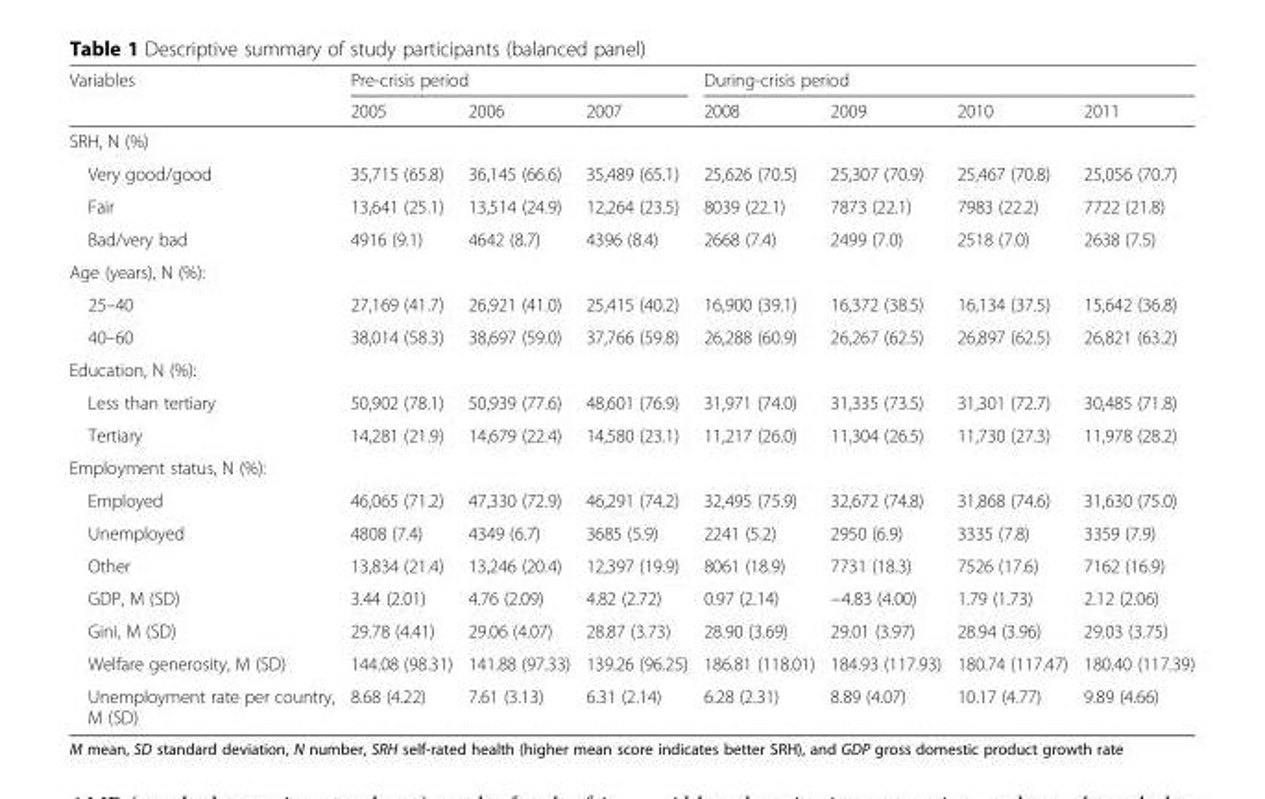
<table><thead><tr><td rowspan="2">Variables</td><td colspan="3">Pre-crisis period</td><td colspan="4">During-crisis period</td></tr><tr><td>2005</td><td>2006</td><td>2007</td><td>2008</td><td>2009</td><td>2010</td><td>2011</td></tr></thead><tbody><tr><td colspan="8">SRH, N (%)</td></tr><tr><td>Very good/good</td><td>35,715 (65.8)</td><td>36,145 (66.6)</td><td>35,489 (65.1)</td><td>25,626 (70.5)</td><td>25,307 (70.9)</td><td>25,467 (70.8)</td><td>25,056 (70.7)</td></tr><tr><td>Fair</td><td>13,641 (25.1)</td><td>13,514 (24.9)</td><td>12,264 (23.5)</td><td>8039 (22.1)</td><td>7873 (22.1)</td><td>7983 (22.2)</td><td>7722 (21.8)</td></tr><tr><td>Bad/very bad</td><td>4916 (9.1)</td><td>4642 (8.7)</td><td>4396 (8.4)</td><td>2668 (7.4)</td><td>2499 (7.0)</td><td>2518 (7.0)</td><td>2638 (7.5)</td></tr><tr><td colspan="8">Age (years), N (%):</td></tr><tr><td>25–40</td><td>27,169 (41.7)</td><td>26,921 (41.0)</td><td>25,415 (40.2)</td><td>16,900 (39.1)</td><td>16,372 (38.5)</td><td>16,134 (37.5)</td><td>15,642 (36.8)</td></tr><tr><td>40–60</td><td>38,014 (58.3)</td><td>38,697 (59.0)</td><td>37,766 (59.8)</td><td>26,288 (60.9)</td><td>26,267 (62.5)</td><td>26,897 (62.5)</td><td>26,821 (63.2)</td></tr><tr><td colspan="8">Education, N (%):</td></tr><tr><td>Less than tertiary</td><td>50,902 (78.1)</td><td>50,939 (77.6)</td><td>48,601 (76.9)</td><td>31,971 (74.0)</td><td>31,335 (73.5)</td><td>31,301 (72.7)</td><td>30,485 (71.8)</td></tr><tr><td>Tertiary</td><td>14,281 (21.9)</td><td>14,679 (22.4)</td><td>14,580 (23.1)</td><td>11,217 (26.0)</td><td>11,304 (26.5)</td><td>11,730 (27.3)</td><td>11,978 (28.2)</td></tr><tr><td colspan="8">Employment status, N (%):</td></tr><tr><td>Employed</td><td>46,065 (71.2)</td><td>47,330 (72.9)</td><td>46,291 (74.2)</td><td>32,495 (75.9)</td><td>32,672 (74.8)</td><td>31,868 (74.6)</td><td>31,630 (75.0)</td></tr><tr><td>Unemployed</td><td>4808 (7.4)</td><td>4349 (6.7)</td><td>3685 (5.9)</td><td>2241 (5.2)</td><td>2950 (6.9)</td><td>3335 (7.8)</td><td>3359 (7.9)</td></tr><tr><td>Other</td><td>13,834 (21.4)</td><td>13,246 (20.4)</td><td>12,397 (19.9)</td><td>8061 (18.9)</td><td>7731 (18.3)</td><td>7526 (17.6)</td><td>7162 (16.9)</td></tr><tr><td>GDP, M (SD)</td><td>3.44 (2.01)</td><td>4.76 (2.09)</td><td>4.82 (2.72)</td><td>0.97 (2.14)</td><td>−4.83 (4.00)</td><td>1.79 (1.73)</td><td>2.12 (2.06)</td></tr><tr><td>Gini, M (SD)</td><td>29.78 (4.41)</td><td>29.06 (4.07)</td><td>28.87 (3.73)</td><td>28.90 (3.69)</td><td>29.01 (3.97)</td><td>28.94 (3.96)</td><td>29.03 (3.75)</td></tr><tr><td>Welfare generosity, M (SD)</td><td>144.08 (98.31)</td><td>141.88 (97.33)</td><td>139.26 (96.25)</td><td>186.81 (118.01)</td><td>184.93 (117.93)</td><td>180.74 (117.47)</td><td>180.40 (117.39)</td></tr><tr><td>Unemployment rate per country, M (SD)</td><td>8.68 (4.22)</td><td>7.61 (3.13)</td><td>6.31 (2.14)</td><td>6.28 (2.31)</td><td>8.89 (4.07)</td><td>10.17 (4.77)</td><td>9.89 (4.66)</td></tr></tbody></table>